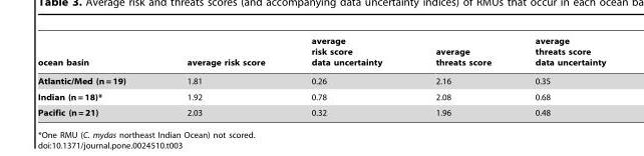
<table><thead><tr><td>ocean basin</td><td>average risk score</td><td>average risk score data uncertainty</td><td>average threats score</td><td>average threats score data uncertainty</td></tr></thead><tbody><tr><td>Atlantic/Med (n = 19)</td><td>1.81</td><td>0.26</td><td>2.16</td><td>0.35</td></tr><tr><td>Indian (n = 18)*</td><td>1.92</td><td>0.78</td><td>2.08</td><td>0.68</td></tr><tr><td>Pacific (n = 21)</td><td>2.03</td><td>0.32</td><td>1.96</td><td>0.48</td></tr></tbody></table>